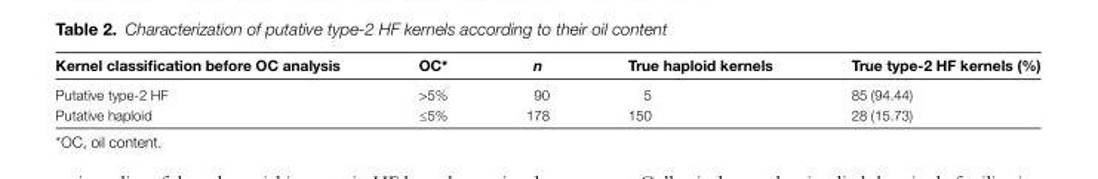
<table><thead><tr><td>Kernel classification before OC analysis</td><td>OC*</td><td>n</td><td>True haploid kernels</td><td>True type-2 HF kernels (%)</td></tr></thead><tbody><tr><td>Putative type-2 HF</td><td>&gt;5%</td><td>90</td><td>5</td><td>85 (94.44)</td></tr><tr><td>Putative haploid</td><td>≤5%</td><td>178</td><td>150</td><td>28 (15.73)</td></tr></tbody></table>